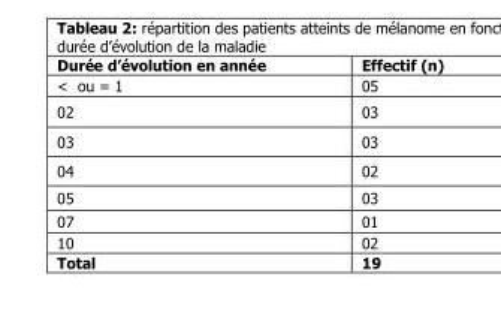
<table><thead><tr><td>Durée d’évolution en année</td><td>Effectif (n)</td></tr></thead><tbody><tr><td>&lt; ou = 1</td><td>05</td></tr><tr><td>02</td><td>03</td></tr><tr><td>03</td><td>03</td></tr><tr><td>04</td><td>02</td></tr><tr><td>05</td><td>03</td></tr><tr><td>07</td><td>01</td></tr><tr><td>10</td><td>02</td></tr><tr><td>Total</td><td>19</td></tr></tbody></table>